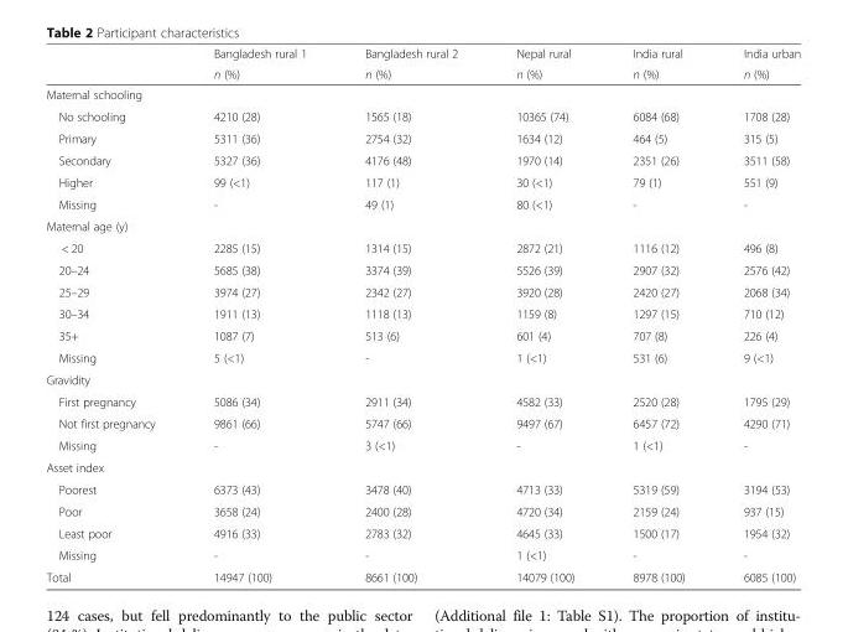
<table><thead><tr><td rowspan="2"></td><td rowspan="2">Bangladesh rural 1 n (%)</td><td rowspan="2">Bangladesh rural 2 n (%)</td><td rowspan="2">Nepal rural n (%)</td><td rowspan="2">India rural n (%)</td><td rowspan="2">India urban n (%)</td></tr><tr></tr></thead><tbody><tr><td colspan="6">Maternal schooling</td></tr><tr><td>No schooling</td><td>4210 (28)</td><td>1565 (18)</td><td>10365 (74)</td><td>6084 (68)</td><td>1708 (28)</td></tr><tr><td>Primary</td><td>5311 (36)</td><td>2754 (32)</td><td>1634 (12)</td><td>464 (5)</td><td>315 (5)</td></tr><tr><td>Secondary</td><td>5327 (36)</td><td>4176 (48)</td><td>1970 (14)</td><td>2351 (26)</td><td>3511 (58)</td></tr><tr><td>Higher</td><td>99 (&lt;1)</td><td>117 (1)</td><td>30 (&lt;1)</td><td>79 (1)</td><td>551 (9)</td></tr><tr><td>Missing</td><td>-</td><td>49 (1)</td><td>80 (&lt;1)</td><td>-</td><td>-</td></tr><tr><td colspan="6">Maternal age (y)</td></tr><tr><td>&lt; 20</td><td>2285 (15)</td><td>1314 (15)</td><td>2872 (21)</td><td>1116 (12)</td><td>496 (8)</td></tr><tr><td>20–24</td><td>5685 (38)</td><td>3374 (39)</td><td>5526 (39)</td><td>2907 (32)</td><td>2576 (42)</td></tr><tr><td>25–29</td><td>3974 (27)</td><td>2342 (27)</td><td>3920 (28)</td><td>2420 (27)</td><td>2068 (34)</td></tr><tr><td>30–34</td><td>1911 (13)</td><td>1118 (13)</td><td>1159 (8)</td><td>1297 (15)</td><td>710 (12)</td></tr><tr><td>35+</td><td>1087 (7)</td><td>513 (6)</td><td>601 (4)</td><td>707 (8)</td><td>226 (4)</td></tr><tr><td>Missing</td><td>5 (&lt;1)</td><td>-</td><td>1 (&lt;1)</td><td>531 (6)</td><td>9 (&lt;1)</td></tr><tr><td colspan="6">Gravidity</td></tr><tr><td>First pregnancy</td><td>5086 (34)</td><td>2911 (34)</td><td>4582 (33)</td><td>2520 (28)</td><td>1795 (29)</td></tr><tr><td>Not first pregnancy</td><td>9861 (66)</td><td>5747 (66)</td><td>9497 (67)</td><td>6457 (72)</td><td>4290 (71)</td></tr><tr><td>Missing</td><td>-</td><td>3 (&lt;1)</td><td>-</td><td>1 (&lt;1)</td><td>-</td></tr><tr><td colspan="6">Asset index</td></tr><tr><td>Poorest</td><td>6373 (43)</td><td>3478 (40)</td><td>4713 (33)</td><td>5319 (59)</td><td>3194 (53)</td></tr><tr><td>Poor</td><td>3658 (24)</td><td>2400 (28)</td><td>4720 (34)</td><td>2159 (24)</td><td>937 (15)</td></tr><tr><td>Least poor</td><td>4916 (33)</td><td>2783 (32)</td><td>4645 (33)</td><td>1500 (17)</td><td>1954 (32)</td></tr><tr><td>Missing</td><td>-</td><td>-</td><td>1 (&lt;1)</td><td>-</td><td>-</td></tr><tr><td>Total</td><td>14947 (100)</td><td>8661 (100)</td><td>14079 (100)</td><td>8978 (100)</td><td>6085 (100)</td></tr></tbody></table>